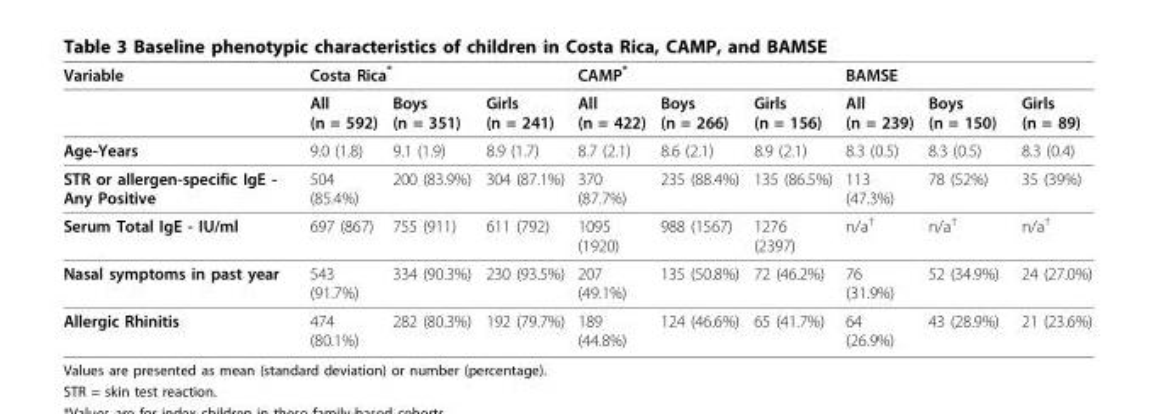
<table><thead><tr><td rowspan="2">Variable</td><td colspan="3">Costa Rica*</td><td colspan="3">CAMP*</td><td colspan="3">BAMSE</td></tr><tr><td>All (n = 592)</td><td>Boys (n = 351)</td><td>Girls (n = 241)</td><td>All (n = 422)</td><td>Boys (n = 266)</td><td>Girls (n = 156)</td><td>All (n = 239)</td><td>Boys (n = 150)</td><td>Girls (n = 89)</td></tr></thead><tbody><tr><td>Age-Years</td><td>9.0 (1.8)</td><td>9.1 (1.9)</td><td>8.9 (1.7)</td><td>8.7 (2.1)</td><td>8.6 (2.1)</td><td>8.9 (2.1)</td><td>8.3 (0.5)</td><td>8.3 (0.5)</td><td>8.3 (0.4)</td></tr><tr><td>STR or allergen-specific IgE - Any Positive</td><td>504 (85.4%)</td><td>200 (83.9%)</td><td>304 (87.1%)</td><td>370 (87.7%)</td><td>235 (88.4%)</td><td>135 (86.5%)</td><td>113 (47.3%)</td><td>78 (52%)</td><td>35 (39%)</td></tr><tr><td>Serum Total IgE - IU/ml</td><td>697 (867)</td><td>755 (911)</td><td>611 (792)</td><td>1095 (1920)</td><td>988 (1567)</td><td>1276 (2397)</td><td>n/a<sup>†</sup></td><td>n/a<sup>†</sup></td><td>n/a<sup>†</sup></td></tr><tr><td>Nasal symptoms in past year</td><td>543 (91.7%)</td><td>334 (90.3%)</td><td>230 (93.5%)</td><td>207 (49.1%)</td><td>135 (50.8%)</td><td>72 (46.2%)</td><td>76 (31.9%)</td><td>52 (34.9%)</td><td>24 (27.0%)</td></tr><tr><td>Allergic Rhinitis</td><td>474 (80.1%)</td><td>282 (80.3%)</td><td>192 (79.7%)</td><td>189 (44.8%)</td><td>124 (46.6%)</td><td>65 (41.7%)</td><td>64 (26.9%)</td><td>43 (28.9%)</td><td>21 (23.6%)</td></tr></tbody></table>